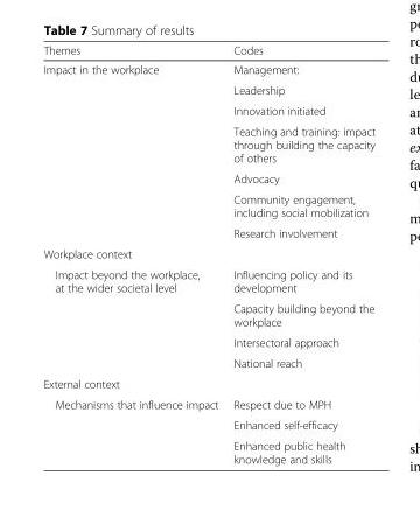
<table><thead><tr><td>Themes</td><td>Codes</td></tr></thead><tbody><tr><td rowspan="7">Impact in the workplace</td><td>Management:</td></tr><tr><td>Leadership</td></tr><tr><td>Innovation initiated</td></tr><tr><td>Teaching and training: impact through building the capacity of others</td></tr><tr><td>Advocacy</td></tr><tr><td>Community engagement, including social mobilization</td></tr><tr><td>Research involvement</td></tr><tr><td colspan="2">Workplace context</td></tr><tr><td rowspan="4">Impact beyond the workplace, at the wider societal level</td><td>Influencing policy and its development</td></tr><tr><td>Capacity building beyond the workplace</td></tr><tr><td>Intersectoral approach</td></tr><tr><td>National reach</td></tr><tr><td colspan="2">External context</td></tr><tr><td rowspan="3">Mechanisms that influence impact</td><td>Respect due to MPH</td></tr><tr><td>Enhanced self-efficacy</td></tr><tr><td>Enhanced public health knowledge and skills</td></tr></tbody></table>